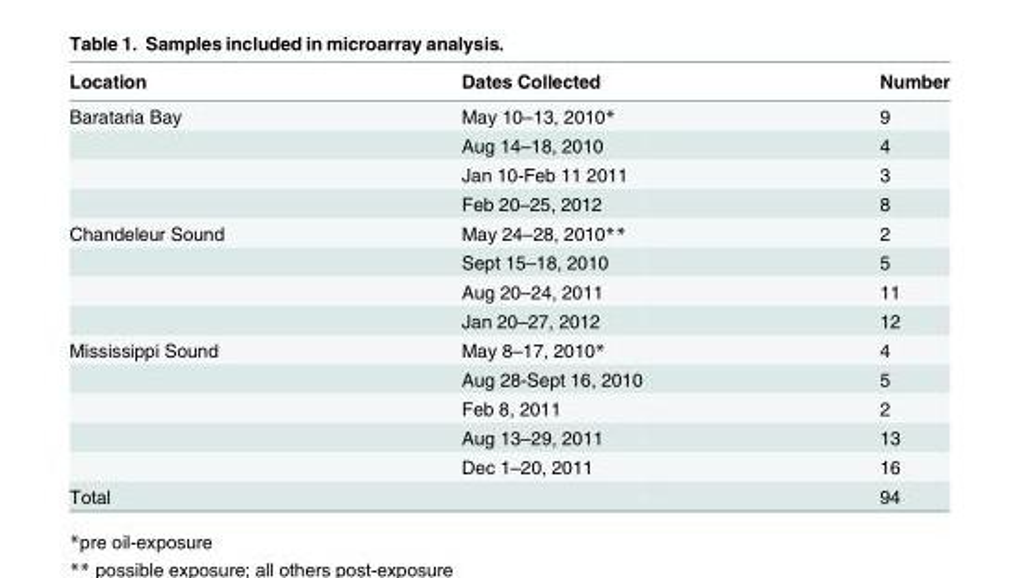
<table><thead><tr><td>Location</td><td>Dates Collected</td><td>Number</td></tr></thead><tbody><tr><td rowspan="4">Barataria Bay</td><td>May 10–13, 2010*</td><td>9</td></tr><tr><td>Aug 14–18, 2010</td><td>4</td></tr><tr><td>Jan 10-Feb 11 2011</td><td>3</td></tr><tr><td>Feb 20–25, 2012</td><td>8</td></tr><tr><td rowspan="4">Chandeleur Sound</td><td>May 24–28, 2010**</td><td>2</td></tr><tr><td>Sept 15–18, 2010</td><td>5</td></tr><tr><td>Aug 20–24, 2011</td><td>11</td></tr><tr><td>Jan 20–27, 2012</td><td>12</td></tr><tr><td rowspan="5">Mississippi Sound</td><td>May 8–17, 2010*</td><td>4</td></tr><tr><td>Aug 28-Sept 16, 2010</td><td>5</td></tr><tr><td>Feb 8, 2011</td><td>2</td></tr><tr><td>Aug 13–29, 2011</td><td>13</td></tr><tr><td>Dec 1–20, 2011</td><td>16</td></tr><tr><td>Total</td><td></td><td>94</td></tr></tbody></table>